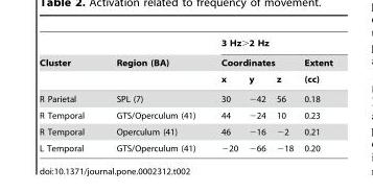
<table><thead><tr><td rowspan="3">Cluster</td><td rowspan="3">Region (BA)</td><td colspan="4">3 Hz&gt;2 Hz</td></tr><tr><td colspan="3">Coordinates</td><td rowspan="2">Extent (cc)</td></tr><tr><td>x</td><td>y</td><td>z</td></tr></thead><tbody><tr><td>R Parietal</td><td>SPL (7)</td><td>30</td><td>−42</td><td>56</td><td>0.18</td></tr><tr><td>R Temporal</td><td>GTS/Operculum (41)</td><td>44</td><td>−24</td><td>10</td><td>0.23</td></tr><tr><td>R Temporal</td><td>Operculum (41)</td><td>46</td><td>−16</td><td>−2</td><td>0.21</td></tr><tr><td>L Temporal</td><td>GTS/Operculum (41)</td><td>−20</td><td>−66</td><td>−18</td><td>0.20</td></tr></tbody></table>